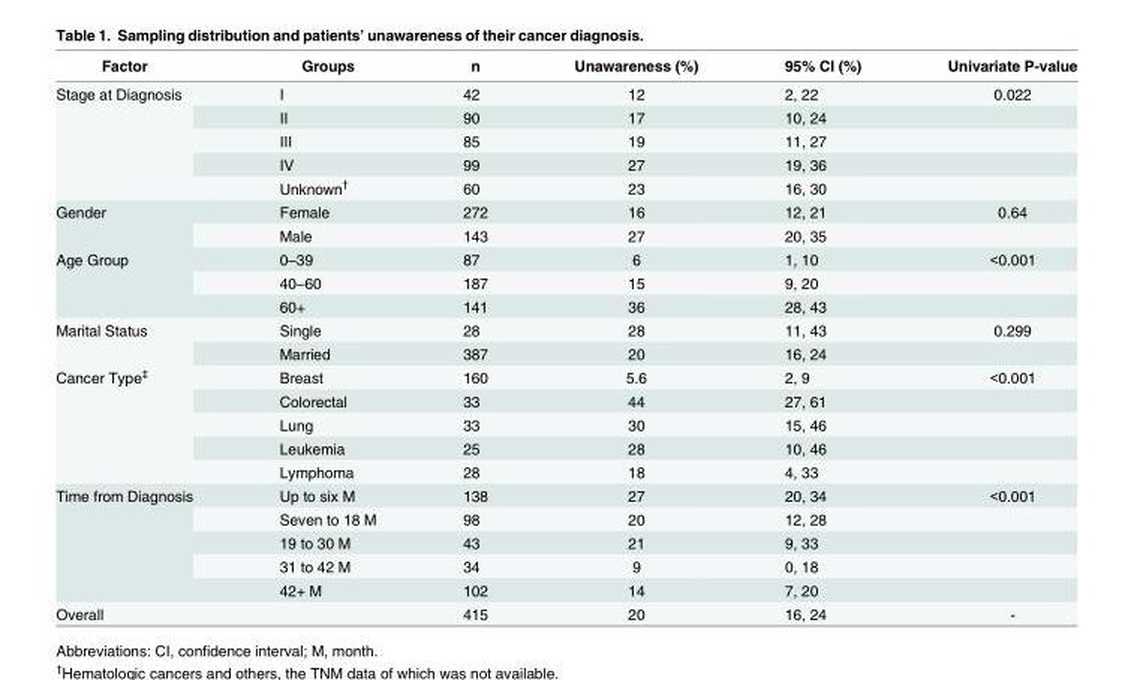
<table><thead><tr><td>Factor</td><td>Groups</td><td>n</td><td>Unawareness (%)</td><td>95% CI (%)</td><td>Univariate P-value</td></tr></thead><tbody><tr><td rowspan="5">Stage at Diagnosis</td><td>I</td><td>42</td><td>12</td><td>2, 22</td><td>0.022</td></tr><tr><td>II</td><td>90</td><td>17</td><td>10, 24</td><td></td></tr><tr><td>III</td><td>85</td><td>19</td><td>11, 27</td><td></td></tr><tr><td>IV</td><td>99</td><td>27</td><td>19, 36</td><td></td></tr><tr><td>Unknown<sup>†</sup></td><td>60</td><td>23</td><td>16, 30</td><td></td></tr><tr><td rowspan="2">Gender</td><td>Female</td><td>272</td><td>16</td><td>12, 21</td><td>0.64</td></tr><tr><td>Male</td><td>143</td><td>27</td><td>20, 35</td><td></td></tr><tr><td rowspan="3">Age Group</td><td>0–39</td><td>87</td><td>6</td><td>1, 10</td><td>&lt;0.001</td></tr><tr><td>40–60</td><td>187</td><td>15</td><td>9, 20</td><td></td></tr><tr><td>60+</td><td>141</td><td>36</td><td>28, 43</td><td></td></tr><tr><td rowspan="2">Marital Status</td><td>Single</td><td>28</td><td>28</td><td>11, 43</td><td>0.299</td></tr><tr><td>Married</td><td>387</td><td>20</td><td>16, 24</td><td></td></tr><tr><td rowspan="5">Cancer Type<sup>‡</sup></td><td>Breast</td><td>160</td><td>5.6</td><td>2, 9</td><td>&lt;0.001</td></tr><tr><td>Colorectal</td><td>33</td><td>44</td><td>27, 61</td><td></td></tr><tr><td>Lung</td><td>33</td><td>30</td><td>15, 46</td><td></td></tr><tr><td>Leukemia</td><td>25</td><td>28</td><td>10, 46</td><td></td></tr><tr><td>Lymphoma</td><td>28</td><td>18</td><td>4, 33</td><td></td></tr><tr><td rowspan="5">Time from Diagnosis</td><td>Up to six M</td><td>138</td><td>27</td><td>20, 34</td><td>&lt;0.001</td></tr><tr><td>Seven to 18 M</td><td>98</td><td>20</td><td>12, 28</td><td></td></tr><tr><td>19 to 30 M</td><td>43</td><td>21</td><td>9, 33</td><td></td></tr><tr><td>31 to 42 M</td><td>34</td><td>9</td><td>0, 18</td><td></td></tr><tr><td>42+ M</td><td>102</td><td>14</td><td>7, 20</td><td></td></tr><tr><td colspan="2">Overall</td><td>415</td><td>20</td><td>16, 24</td><td>-</td></tr></tbody></table>